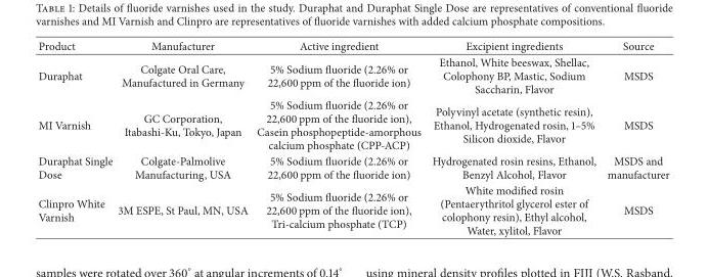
<table><thead><tr><td>Product</td><td>Manufacturer</td><td>Active ingredient</td><td>Excipient ingredients</td><td>Source</td></tr></thead><tbody><tr><td>Duraphat</td><td>Colgate Oral Care, Manufactured in Germany</td><td>5% Sodium fluoride (2.26% or 22,600 ppm of the fluoride ion)</td><td>Ethanol, White beeswax, Shellac, Colophony BP, Mastic, Sodium Saccharin, Flavor</td><td>MSDS</td></tr><tr><td>MI Varnish</td><td>GC Corporation, Itabashi-Ku, Tokyo, Japan</td><td>5% Sodium fluoride (2.26% or 22,600 ppm of the fluoride ion), Casein phosphopeptide-amorphous calcium phosphate (CPP-ACP)</td><td>Polyvinyl acetate (synthetic resin), Ethanol, Hydrogenated rosin, 1–5% Silicon dioxide, Flavor</td><td>MSDS</td></tr><tr><td>Duraphat Single Dose</td><td>Colgate-Palmolive Manufacturing, USA</td><td>5% Sodium fluoride (2.26% or 22,600 ppm of the fluoride ion)</td><td>Hydrogenated rosin resins, Ethanol, Benzyl Alcohol, Flavor</td><td>MSDS and manufacturer</td></tr><tr><td>Clinpro White Varnish</td><td>3M ESPE, St Paul, MN, USA</td><td>5% Sodium fluoride (2.26% or 22,600 ppm of the fluoride ion), Tri-calcium phosphate (TCP)</td><td>White modified rosin (Pentaerythritol glycerol ester of colophony resin), Ethyl alcohol, Water, xylitol, Flavor</td><td>MSDS</td></tr></tbody></table>